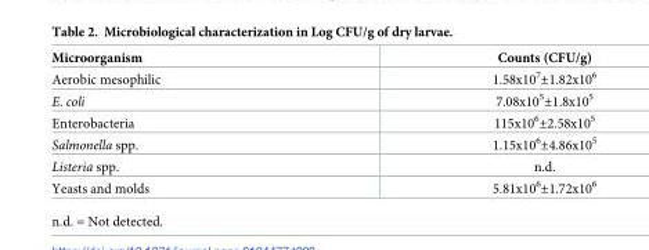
<table><thead><tr><td>Microorganism</td><td>Counts (CFU/g)</td></tr></thead><tbody><tr><td>Aerobic mesophilic</td><td>1.58x10<sup>7</sup>±1.82x10<sup>6</sup></td></tr><tr><td>E. coli</td><td>7.08x10<sup>5</sup>±1.8x10<sup>5</sup></td></tr><tr><td>Enterobacteria</td><td>115x10<sup>6</sup>±2.58x10<sup>5</sup></td></tr><tr><td>Salmonella spp.</td><td>1.15x10<sup>6</sup>±4.86x10<sup>5</sup></td></tr><tr><td>Listeria spp.</td><td>n.d.</td></tr><tr><td>Yeasts and molds</td><td>5.81x10<sup>6</sup>±1.72x10<sup>6</sup></td></tr></tbody></table>